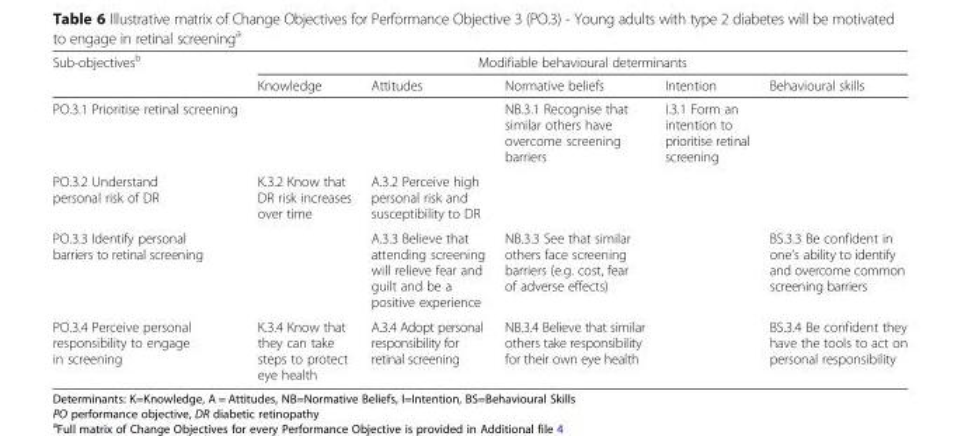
<table><thead><tr><td rowspan="2">Sub-objectives<sup>b</sup></td><td colspan="5">Modifiable behavioural determinants</td></tr><tr><td>Knowledge</td><td>Attitudes</td><td>Normative beliefs</td><td>Intention</td><td>Behavioural skills</td></tr></thead><tbody><tr><td>PO.3.1 Prioritise retinal screening</td><td></td><td></td><td>NB.3.1 Recognise that similar others have overcome screening barriers</td><td>I.3.1 Form an intention to prioritise retinal screening</td><td></td></tr><tr><td>PO.3.2 Understand personal risk of DR</td><td>K.3.2 Know that DR risk increases over time</td><td>A.3.2 Perceive high personal risk and susceptibility to DR</td><td></td><td></td><td></td></tr><tr><td>PO.3.3 Identify personal barriers to retinal screening</td><td></td><td>A.3.3 Believe that attending screening will relieve fear and guilt and be a positive experience</td><td>NB.3.3 See that similar others face screening barriers (e.g. cost, fear of adverse effects)</td><td></td><td>BS.3.3 Be confident in one’s ability to identify and overcome common screening barriers</td></tr><tr><td>PO.3.4 Perceive personal responsibility to engage in screening</td><td>K.3.4 Know that they can take steps to protect eye health</td><td>A.3.4 Adopt personal responsibility for retinal screening</td><td>NB.3.4 Believe that similar others take responsibility for their own eye health</td><td></td><td>BS.3.4 Be confident they have the tools to act on personal responsibility</td></tr></tbody></table>